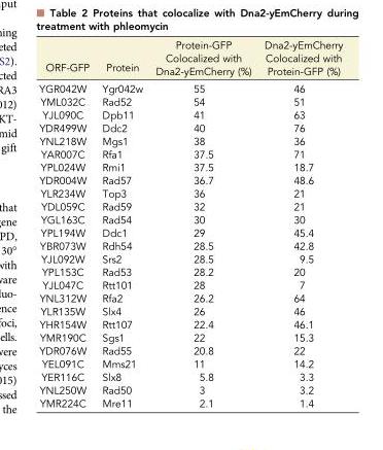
<table><thead><tr><td>ORF-GFP</td><td>Protein</td><td>Protein-GFP Colocalized with Dna2-yEmCherry (%)</td><td>Dna2-yEmCherry Colocalized with Protein-GFP (%)</td></tr></thead><tbody><tr><td>YGR042W</td><td>Ygr042w</td><td>55</td><td>46</td></tr><tr><td>YML032C</td><td>Rad52</td><td>54</td><td>51</td></tr><tr><td>YJL090C</td><td>Dpb11</td><td>41</td><td>63</td></tr><tr><td>YDR499W</td><td>Ddc2</td><td>40</td><td>76</td></tr><tr><td>YNL218W</td><td>Mgs1</td><td>38</td><td>36</td></tr><tr><td>YAR007C</td><td>Rfa1</td><td>37.5</td><td>71</td></tr><tr><td>YPL024W</td><td>Rmi1</td><td>37.5</td><td>18.7</td></tr><tr><td>YDR004W</td><td>Rad57</td><td>36.7</td><td>48.6</td></tr><tr><td>YLR234W</td><td>Top3</td><td>36</td><td>21</td></tr><tr><td>YDL059C</td><td>Rad59</td><td>32</td><td>21</td></tr><tr><td>YGL163C</td><td>Rad54</td><td>30</td><td>30</td></tr><tr><td>YPL194W</td><td>Ddc1</td><td>29</td><td>45.4</td></tr><tr><td>YBR073W</td><td>Rdh54</td><td>28.5</td><td>42.8</td></tr><tr><td>YJL092W</td><td>Srs2</td><td>28.5</td><td>9.5</td></tr><tr><td>YPL153C</td><td>Rad53</td><td>28.2</td><td>20</td></tr><tr><td>YJL047C</td><td>Rtt101</td><td>28</td><td>7</td></tr><tr><td>YNL312W</td><td>Rfa2</td><td>26.2</td><td>64</td></tr><tr><td>YLR135W</td><td>Slx4</td><td>26</td><td>46</td></tr><tr><td>YHR154W</td><td>Rtt107</td><td>22.4</td><td>46.1</td></tr><tr><td>YMR190C</td><td>Sgs1</td><td>22</td><td>15.3</td></tr><tr><td>YDR076W</td><td>Rad55</td><td>20.8</td><td>22</td></tr><tr><td>YEL091C</td><td>Mms21</td><td>11</td><td>14.2</td></tr><tr><td>YER116C</td><td>Slx8</td><td>5.8</td><td>3.3</td></tr><tr><td>YNL250W</td><td>Rad50</td><td>3</td><td>3.2</td></tr><tr><td>YMR224C</td><td>Mre11</td><td>2.1</td><td>1.4</td></tr></tbody></table>